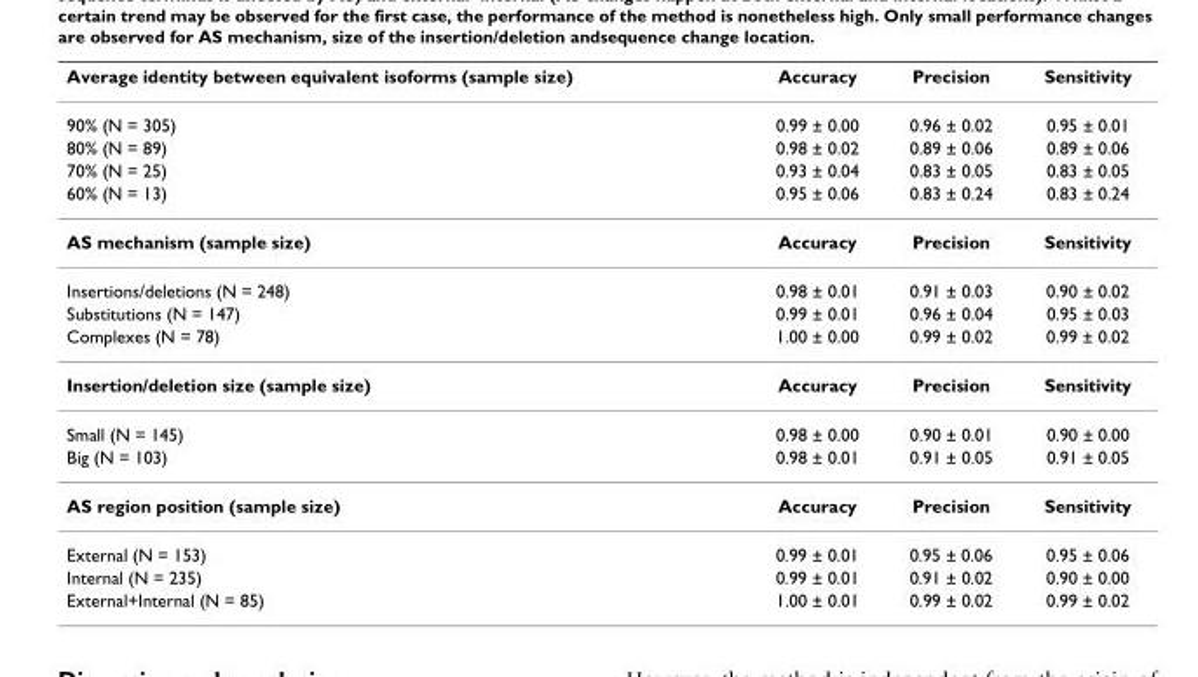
<table><thead><tr><td>Average identity between equivalent isoforms (sample size)</td><td>Accuracy</td><td>Precision</td><td>Sensitivity</td></tr></thead><tbody><tr><td>90% (N = 305)</td><td>0.99 ± 0.00</td><td>0.96 ± 0.02</td><td>0.95 ± 0.01</td></tr><tr><td>80% (N = 89)</td><td>0.98 ± 0.02</td><td>0.89 ± 0.06</td><td>0.89 ± 0.06</td></tr><tr><td>70% (N = 25)</td><td>0.93 ± 0.04</td><td>0.83 ± 0.05</td><td>0.83 ± 0.05</td></tr><tr><td>60% (N = 13)</td><td>0.95 ± 0.06</td><td>0.83 ± 0.24</td><td>0.83 ± 0.24</td></tr><tr><td>AS mechanism (sample size)</td><td>Accuracy</td><td>Precision</td><td>Sensitivity</td></tr><tr><td>Insertions/deletions (N = 248)</td><td>0.98 ± 0.01</td><td>0.91 ± 0.03</td><td>0.90 ± 0.02</td></tr><tr><td>Substitutions (N = 147)</td><td>0.99 ± 0.01</td><td>0.96 ± 0.04</td><td>0.95 ± 0.03</td></tr><tr><td>Complexes (N = 78)</td><td>1.00 ± 0.00</td><td>0.99 ± 0.02</td><td>0.99 ± 0.02</td></tr><tr><td>Insertion/deletion size (sample size)</td><td>Accuracy</td><td>Precision</td><td>Sensitivity</td></tr><tr><td>Small (N = 145)</td><td>0.98 ± 0.00</td><td>0.90 ± 0.01</td><td>0.90 ± 0.00</td></tr><tr><td>Big (N = 103)</td><td>0.98 ± 0.01</td><td>0.91 ± 0.05</td><td>0.91 ± 0.05</td></tr><tr><td>AS region position (sample size)</td><td>Accuracy</td><td>Precision</td><td>Sensitivity</td></tr><tr><td>External (N = 153)</td><td>0.99 ± 0.01</td><td>0.95 ± 0.06</td><td>0.95 ± 0.06</td></tr><tr><td>Internal (N = 235)</td><td>0.99 ± 0.01</td><td>0.91 ± 0.02</td><td>0.90 ± 0.00</td></tr><tr><td>External+Internal (N = 85)</td><td>1.00 ± 0.01</td><td>0.99 ± 0.02</td><td>0.99 ± 0.02</td></tr></tbody></table>